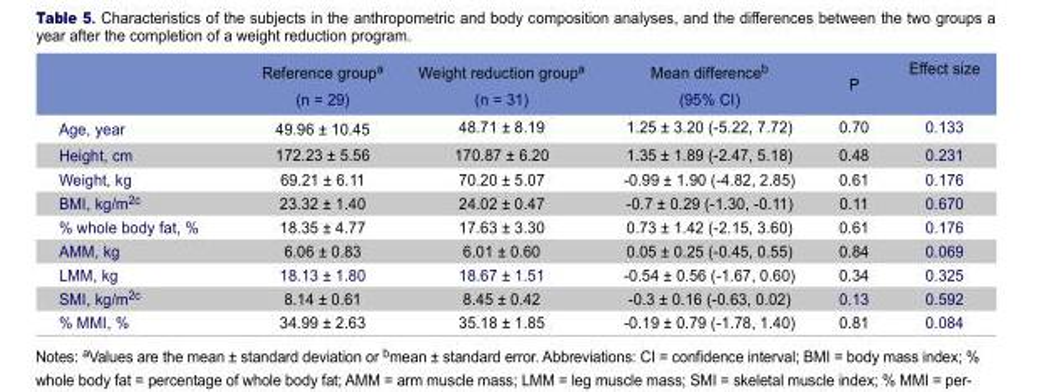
<table><thead><tr><td rowspan="2"></td><td rowspan="2">Reference group<sup>a</sup> (n = 29)</td><td rowspan="2">Weight reduction group<sup>a</sup> (n = 31)</td><td rowspan="2">Mean difference<sup>b</sup> (95% CI)</td><td rowspan="2">P</td><td rowspan="2">Effect size</td></tr><tr></tr></thead><tbody><tr><td>Age, year</td><td>49.96 ± 10.45</td><td>48.71 ± 8.19</td><td>1.25 ± 3.20 (-5.22, 7.72)</td><td>0.70</td><td>0.133</td></tr><tr><td>Height, cm</td><td>172.23 ± 5.56</td><td>170.87 ± 6.20</td><td>1.35 ± 1.89 (-2.47, 5.18)</td><td>0.48</td><td>0.231</td></tr><tr><td>Weight, kg</td><td>69.21 ± 6.11</td><td>70.20 ± 5.07</td><td>-0.99 ± 1.90 (-4.82, 2.85)</td><td>0.61</td><td>0.176</td></tr><tr><td>BMI, kg/m<sup>2c</sup></td><td>23.32 ± 1.40</td><td>24.02 ± 0.47</td><td>-0.7 ± 0.29 (-1.30, -0.11)</td><td>0.11</td><td>0.670</td></tr><tr><td>% whole body fat, %</td><td>18.35 ± 4.77</td><td>17.63 ± 3.30</td><td>0.73 ± 1.42 (-2.15, 3.60)</td><td>0.61</td><td>0.176</td></tr><tr><td>AMM, kg</td><td>6.06 ± 0.83</td><td>6.01 ± 0.60</td><td>0.05 ± 0.25 (-0.45, 0.55)</td><td>0.84</td><td>0.069</td></tr><tr><td>LMM, kg</td><td>18.13 ± 1.80</td><td>18.67 ± 1.51</td><td>-0.54 ± 0.56 (-1.67, 0.60)</td><td>0.34</td><td>0.325</td></tr><tr><td>SMI, kg/m<sup>2c</sup></td><td>8.14 ± 0.61</td><td>8.45 ± 0.42</td><td>-0.3 ± 0.16 (-0.63, 0.02)</td><td>0.13</td><td>0.592</td></tr><tr><td>% MMI, %</td><td>34.99 ± 2.63</td><td>35.18 ± 1.85</td><td>-0.19 ± 0.79 (-1.78, 1.40)</td><td>0.81</td><td>0.084</td></tr></tbody></table>